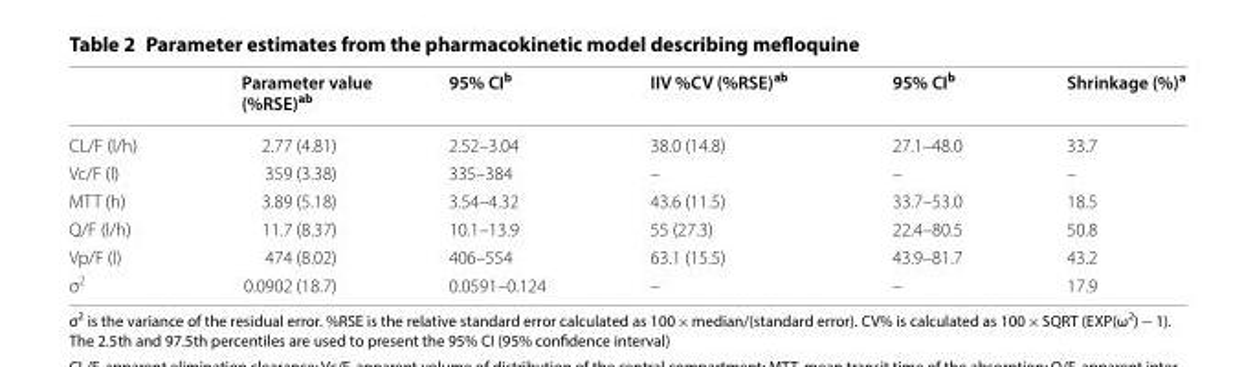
<table><thead><tr><td></td><td>Parameter value (%RSE)<sup>ab</sup></td><td>95% CI<sup>b</sup></td><td>IIV %CV (%RSE)<sup>ab</sup></td><td>95% CI<sup>b</sup></td><td>Shrinkage (%)<sup>a</sup></td></tr></thead><tbody><tr><td>CL/F (l/h)</td><td>2.77 (4.81)</td><td>2.52–3.04</td><td>38.0 (14.8)</td><td>27.1–48.0</td><td>33.7</td></tr><tr><td>Vc/F (l)</td><td>359 (3.38)</td><td>335–384</td><td>–</td><td>–</td><td>–</td></tr><tr><td>MTT (h)</td><td>3.89 (5.18)</td><td>3.54–4.32</td><td>43.6 (11.5)</td><td>33.7–53.0</td><td>18.5</td></tr><tr><td>Q/F (l/h)</td><td>11.7 (8.37)</td><td>10.1–13.9</td><td>55 (27.3)</td><td>22.4–80.5</td><td>50.8</td></tr><tr><td>Vp/F (l)</td><td>474 (8.02)</td><td>406–554</td><td>63.1 (15.5)</td><td>43.9–81.7</td><td>43.2</td></tr><tr><td>σ<sup>2</sup></td><td>0.0902 (18.7)</td><td>0.0591–0.124</td><td>–</td><td>–</td><td>17.9</td></tr></tbody></table>